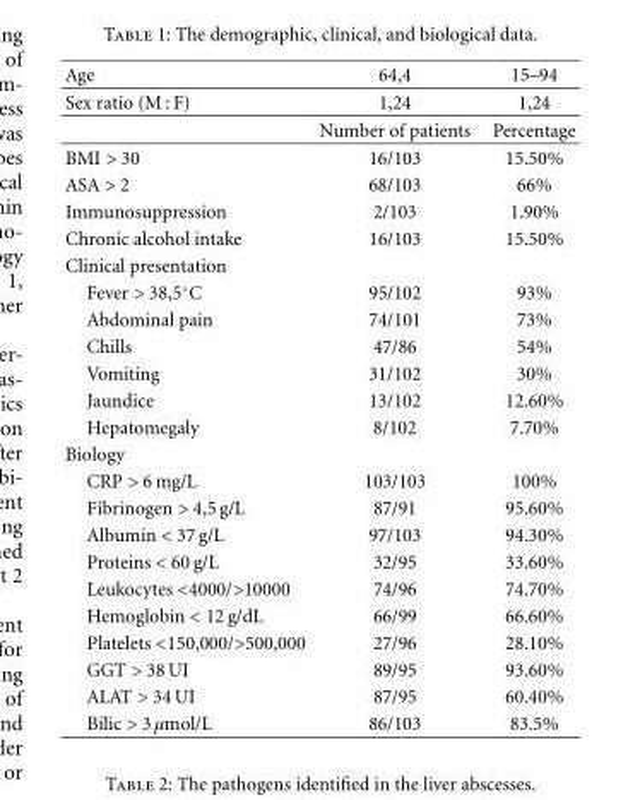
<table><thead><tr><td>Age</td><td>64,4</td><td>15–94</td></tr></thead><tbody><tr><td rowspan="2">Sex ratio (M : F)</td><td>1,24</td><td>1,24</td></tr><tr><td>Number of patients</td><td>Percentage</td></tr><tr><td>BMI &gt; 30</td><td>16/103</td><td>15.50%</td></tr><tr><td>ASA &gt; 2</td><td>68/103</td><td>66%</td></tr><tr><td>Immunosuppression</td><td>2/103</td><td>1.90%</td></tr><tr><td>Chronic alcohol intake</td><td>16/103</td><td>15.50%</td></tr><tr><td colspan="3">Clinical presentation</td></tr><tr><td>Fever &gt; 38,5◦C</td><td>95/102</td><td>93%</td></tr><tr><td>Abdominal pain</td><td>74/101</td><td>73%</td></tr><tr><td>Chills</td><td>47/86</td><td>54%</td></tr><tr><td>Vomiting</td><td>31/102</td><td>30%</td></tr><tr><td>Jaundice</td><td>13/102</td><td>12.60%</td></tr><tr><td>Hepatomegaly</td><td>8/102</td><td>7.70%</td></tr><tr><td colspan="3">Biology</td></tr><tr><td>CRP &gt; 6 mg/L</td><td>103/103</td><td>100%</td></tr><tr><td>Fibrinogen &gt; 4,5 g/L</td><td>87/91</td><td>95.60%</td></tr><tr><td>Albumin &lt; 37 g/L</td><td>97/103</td><td>94.30%</td></tr><tr><td>Proteins &lt; 60 g/L</td><td>32/95</td><td>33.60%</td></tr><tr><td>Leukocytes &lt;4000/&gt;10000</td><td>74/96</td><td>74.70%</td></tr><tr><td>Hemoglobin &lt; 12 g/dL</td><td>66/99</td><td>66.60%</td></tr><tr><td>Platelets &lt;150,000/&gt;500,000</td><td>27/96</td><td>28.10%</td></tr><tr><td>GGT &gt; 38 UI</td><td>89/95</td><td>93.60%</td></tr><tr><td>ALAT &gt; 34 UI</td><td>87/95</td><td>60.40%</td></tr><tr><td>Bilic &gt; 3 μmol/L</td><td>86/103</td><td>83.5%</td></tr></tbody></table>